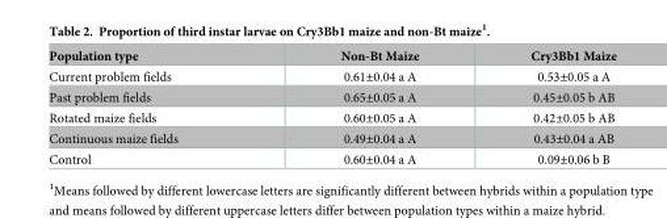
<table><thead><tr><td>Population type</td><td>Non-Bt Maize</td><td>Cry3Bb1 Maize</td></tr></thead><tbody><tr><td>Current problem fields</td><td>0.61±0.04 a A</td><td>0.53±0.05 a A</td></tr><tr><td>Past problem fields</td><td>0.65±0.05 a A</td><td>0.45±0.05 b AB</td></tr><tr><td>Rotated maize fields</td><td>0.60±0.05 a A</td><td>0.42±0.05 b AB</td></tr><tr><td>Continuous maize fields</td><td>0.49±0.04 a A</td><td>0.43±0.04 a AB</td></tr><tr><td>Control</td><td>0.60±0.04 a A</td><td>0.09±0.06 b B</td></tr></tbody></table>